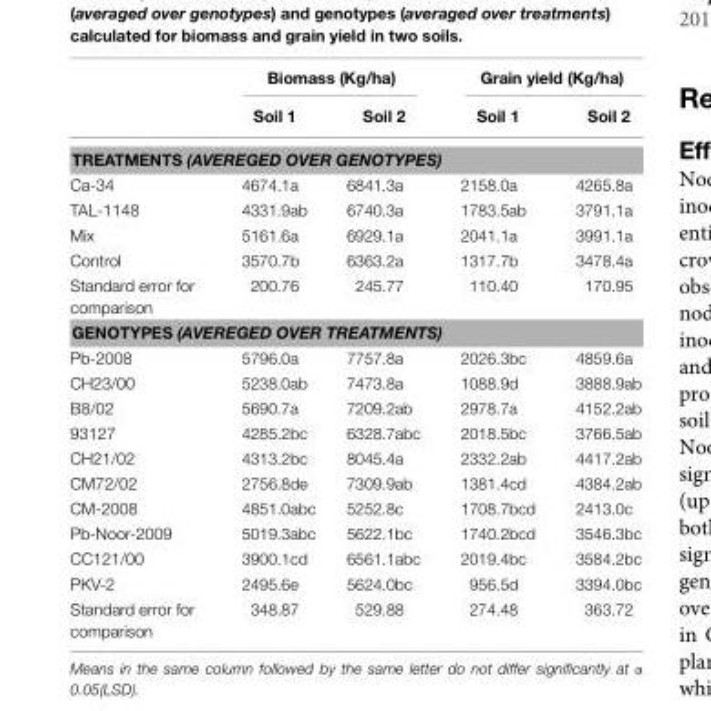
<table><thead><tr><td rowspan="2"></td><td colspan="2">Biomass (Kg/ha)</td><td colspan="2">Grain yield (Kg/ha)</td></tr><tr><td>Soil 1</td><td>Soil 2</td><td>Soil 1</td><td>Soil 2</td></tr></thead><tbody><tr><td colspan="5">TREATMENTS (AVEREGED OVER GENOTYPES)</td></tr><tr><td>Ca-34</td><td>4674.1a</td><td>6841.3a</td><td>2158.0a</td><td>4265.8a</td></tr><tr><td>TAL-1148</td><td>4331.9ab</td><td>6740.3a</td><td>1783.5ab</td><td>3791.1a</td></tr><tr><td>Mix</td><td>5161.6a</td><td>6929.1a</td><td>2041.1a</td><td>3991.1a</td></tr><tr><td>Control</td><td>3570.7b</td><td>6363.2a</td><td>1317.7b</td><td>3478.4a</td></tr><tr><td>Standard error for comparison</td><td>200.76</td><td>245.77</td><td>110.40</td><td>170.95</td></tr><tr><td colspan="5">GENOTYPES (AVEREGED OVER TREATMENTS)</td></tr><tr><td>Pb-2008</td><td>5796.0a</td><td>7757.8a</td><td>2026.3bc</td><td>4859.6a</td></tr><tr><td>CH23/00</td><td>5238.0ab</td><td>7473.8a</td><td>1088.9d</td><td>3888.9ab</td></tr><tr><td>B8/02</td><td>5690.7a</td><td>7209.2ab</td><td>2978.7a</td><td>4152.2ab</td></tr><tr><td>93127</td><td>4285.2bc</td><td>6328.7abc</td><td>2018.5bc</td><td>3766.5ab</td></tr><tr><td>CH21/02</td><td>4313.2bc</td><td>8045.4a</td><td>2332.2ab</td><td>4417.2ab</td></tr><tr><td>CM72/02</td><td>2756.8de</td><td>7309.9ab</td><td>1381.4cd</td><td>4384.2ab</td></tr><tr><td>CM-2008</td><td>4851.0abc</td><td>5252.8c</td><td>1708.7bcd</td><td>2413.0c</td></tr><tr><td>Pb-Noor-2009</td><td>5019.3abc</td><td>5622.1bc</td><td>1740.2bcd</td><td>3546.3bc</td></tr><tr><td>CC121/00</td><td>3900.1cd</td><td>6561.1abc</td><td>2019.4bc</td><td>3584.2bc</td></tr><tr><td>PKV-2</td><td>2495.6e</td><td>5624.0bc</td><td>956.5d</td><td>3394.0bc</td></tr><tr><td>Standard error for comparison</td><td>348.87</td><td>529.88</td><td>274.48</td><td>363.72</td></tr></tbody></table>